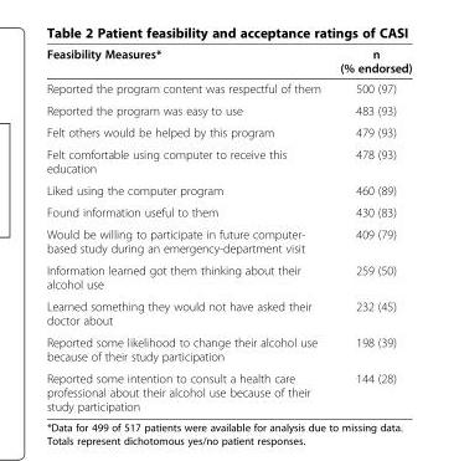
<table><thead><tr><td>Feasibility Measures*</td><td>n (% endorsed)</td></tr></thead><tbody><tr><td>Reported the program content was respectful of them</td><td>500 (97)</td></tr><tr><td>Reported the program was easy to use</td><td>483 (93)</td></tr><tr><td>Felt others would be helped by this program</td><td>479 (93)</td></tr><tr><td>Felt comfortable using computer to receive this education</td><td>478 (93)</td></tr><tr><td>Liked using the computer program</td><td>460 (89)</td></tr><tr><td>Found information useful to them</td><td>430 (83)</td></tr><tr><td>Would be willing to participate in future computer- based study during an emergency-department visit</td><td>409 (79)</td></tr><tr><td>Information learned got them thinking about their alcohol use</td><td>259 (50)</td></tr><tr><td>Learned something they would not have asked their doctor about</td><td>232 (45)</td></tr><tr><td>Reported some likelihood to change their alcohol use because of their study participation</td><td>198 (39)</td></tr><tr><td>Reported some intention to consult a health care professional about their alcohol use because of their study participation</td><td>144 (28)</td></tr></tbody></table>